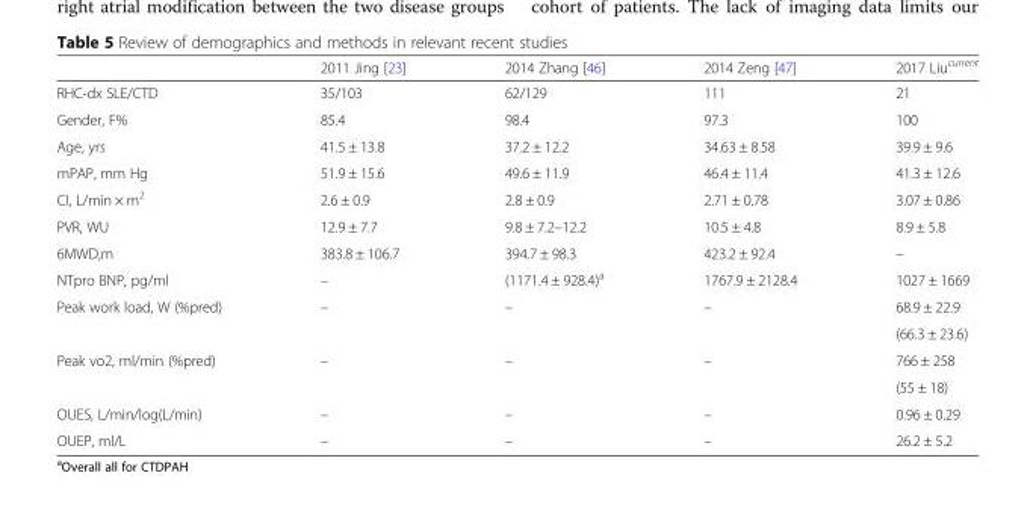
<table><thead><tr><td></td><td>2011 Jing [23]</td><td>2014 Zhang [46]</td><td>2014 Zeng [47]</td><td>2017 Liu<sup>current</sup></td></tr></thead><tbody><tr><td>RHC-dx SLE/CTD</td><td>35/103</td><td>62/129</td><td>111</td><td>21</td></tr><tr><td>Gender, F%</td><td>85.4</td><td>98.4</td><td>97.3</td><td>100</td></tr><tr><td>Age, yrs</td><td>41.5 ± 13.8</td><td>37.2 ± 12.2</td><td>34.63 ± 8.58</td><td>39.9 ± 9.6</td></tr><tr><td>mPAP, mm Hg</td><td>51.9 ± 15.6</td><td>49.6 ± 11.9</td><td>46.4 ± 11.4</td><td>41.3 ± 12.6</td></tr><tr><td>CI, L/min × m<sup>2</sup></td><td>2.6 ± 0.9</td><td>2.8 ± 0.9</td><td>2.71 ± 0.78</td><td>3.07 ± 0.86</td></tr><tr><td>PVR, WU</td><td>12.9 ± 7.7</td><td>9.8 ± 7.2–12.2</td><td>10.5 ± 4.8</td><td>8.9 ± 5.8</td></tr><tr><td>6MWD,m</td><td>383.8 ± 106.7</td><td>394.7 ± 98.3</td><td>423.2 ± 92.4</td><td>–</td></tr><tr><td>NTpro BNP, pg/ml</td><td>–</td><td>(1171.4 ± 928.4)<sup>a</sup></td><td>1767.9 ± 2128.4</td><td>1027 ± 1669</td></tr><tr><td rowspan="2">Peak work load, W (%pred)</td><td rowspan="2">–</td><td rowspan="2">–</td><td rowspan="2">–</td><td>68.9 ± 22.9</td></tr><tr><td>(66.3 ± 23.6)</td></tr><tr><td rowspan="2">Peak vo2, ml/min (%pred)</td><td rowspan="2">–</td><td rowspan="2">–</td><td rowspan="2">–</td><td>766 ± 258</td></tr><tr><td>(55 ± 18)</td></tr><tr><td>OUES, L/min/log(L/min)</td><td>–</td><td>–</td><td>–</td><td>0.96 ± 0.29</td></tr><tr><td>OUEP, ml/L</td><td>–</td><td>–</td><td>–</td><td>26.2 ± 5.2</td></tr></tbody></table>